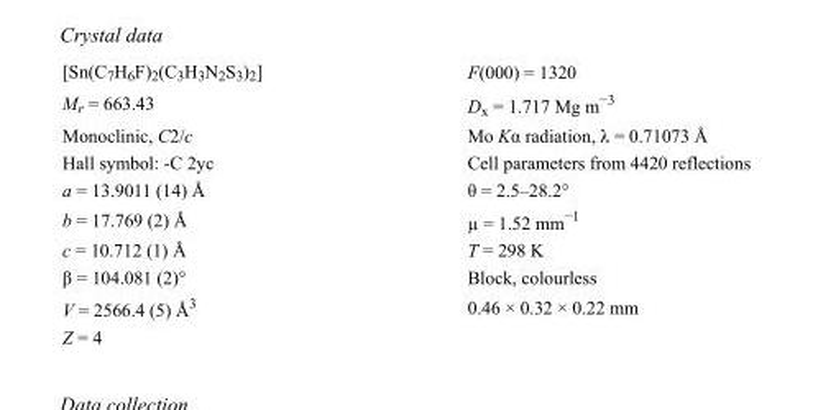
<table><tbody><tr><td>[Sn(C<sub>7</sub>H<sub>6</sub>F)<sub>2</sub>(C<sub>3</sub>H<sub>3</sub>N<sub>2</sub>S<sub>3</sub>)<sub>2</sub>]</td><td>F(000) = 1320</td></tr><tr><td>M<sub>r</sub> = 663.43</td><td>D<sub>x</sub> = 1.717 Mg m<sup>−3</sup></td></tr><tr><td>Monoclinic, C2/c</td><td>Mo Kα radiation, λ = 0.71073 Å</td></tr><tr><td>Hall symbol: -C 2yc</td><td>Cell parameters from 4420 reflections</td></tr><tr><td>a = 13.9011 (14) Å</td><td>θ = 2.5–28.2°</td></tr><tr><td>b = 17.769 (2) Å</td><td>µ = 1.52 mm<sup>−1</sup></td></tr><tr><td>c = 10.712 (1) Å</td><td>T = 298 K</td></tr><tr><td>β = 104.081 (2)°</td><td>Block, colourless</td></tr><tr><td>V = 2566.4 (5) Å<sup>3</sup></td><td>0.46 × 0.32 × 0.22 mm</td></tr><tr><td>Z = 4</td><td></td></tr></tbody></table>